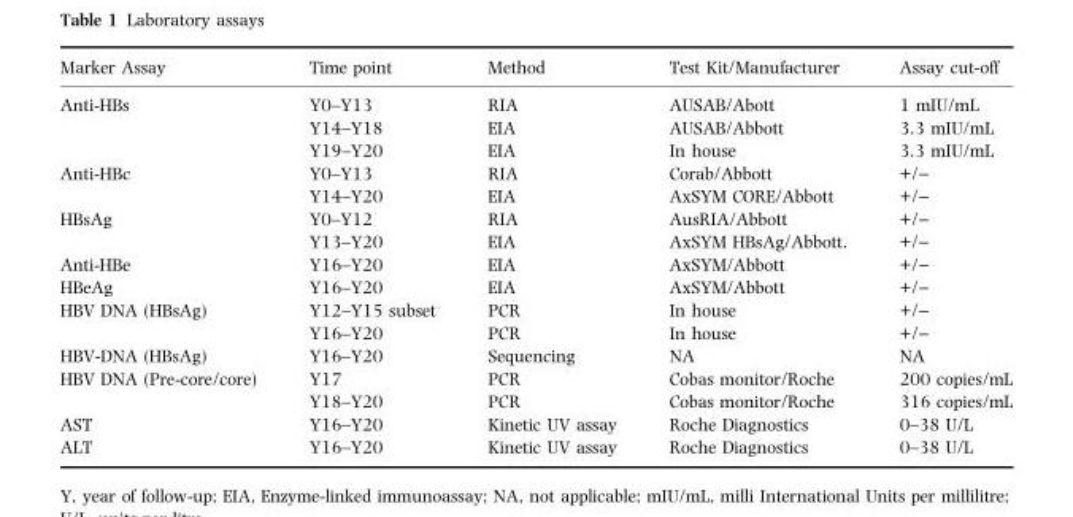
<table><thead><tr><td>Marker Assay</td><td>Time point</td><td>Method</td><td>Test Kit/Manufacturer</td><td>Assay cut-off</td></tr></thead><tbody><tr><td rowspan="3">Anti-HBs</td><td>Y0–Y13</td><td>RIA</td><td>AUSAB/Abott</td><td>1 mIU/mL</td></tr><tr><td>Y14–Y18</td><td>EIA</td><td>AUSAB/Abbott</td><td>3.3 mIU/mL</td></tr><tr><td>Y19–Y20</td><td>EIA</td><td>In house</td><td>3.3 mIU/mL</td></tr><tr><td rowspan="2">Anti-HBc</td><td>Y0–Y13</td><td>RIA</td><td>Corab/Abbott</td><td>+/−</td></tr><tr><td>Y14–Y20</td><td>EIA</td><td>AxSYM CORE/Abbott</td><td>+/−</td></tr><tr><td rowspan="2">HBsAg</td><td>Y0–Y12</td><td>RIA</td><td>AusRIA/Abbott</td><td>+/−</td></tr><tr><td>Y13–Y20</td><td>EIA</td><td>AxSYM HBsAg/Abbott.</td><td>+/−</td></tr><tr><td>Anti-HBe</td><td>Y16–Y20</td><td>EIA</td><td>AxSYM/Abbott</td><td>+/−</td></tr><tr><td>HBeAg</td><td>Y16–Y20</td><td>EIA</td><td>AxSYM/Abbott</td><td>+/−</td></tr><tr><td rowspan="2">HBV DNA (HBsAg)</td><td>Y12–Y15 subset</td><td>PCR</td><td>In house</td><td>+/−</td></tr><tr><td>Y16–Y20</td><td>PCR</td><td>In house</td><td>+/−</td></tr><tr><td>HBV-DNA (HBsAg)</td><td>Y16–Y20</td><td>Sequencing</td><td>NA</td><td>NA</td></tr><tr><td rowspan="2">HBV DNA (Pre-core/core)</td><td>Y17</td><td>PCR</td><td>Cobas monitor/Roche</td><td>200 copies/mL</td></tr><tr><td>Y18–Y20</td><td>PCR</td><td>Cobas monitor/Roche</td><td>316 copies/mL</td></tr><tr><td>AST</td><td>Y16–Y20</td><td>Kinetic UV assay</td><td>Roche Diagnostics</td><td>0–38 U/L</td></tr><tr><td>ALT</td><td>Y16–Y20</td><td>Kinetic UV assay</td><td>Roche Diagnostics</td><td>0–38 U/L</td></tr></tbody></table>